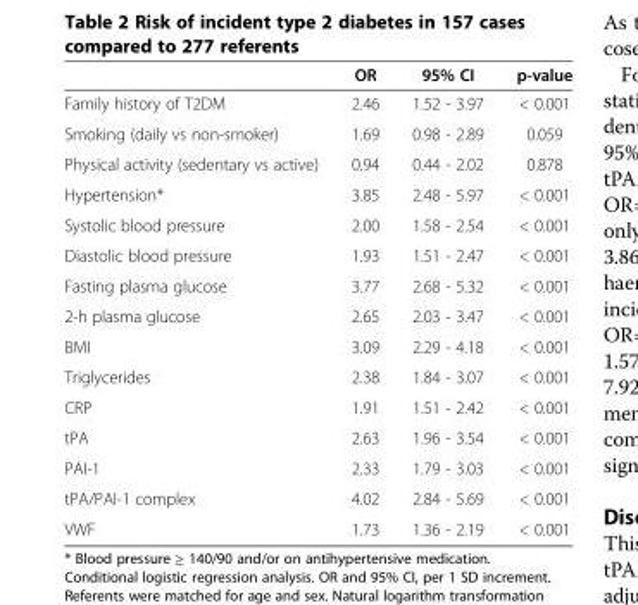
<table><thead><tr><td></td><td>OR</td><td>95% CI</td><td>p-value</td></tr></thead><tbody><tr><td>Family history of T2DM</td><td>2.46</td><td>1.52 - 3.97</td><td>&lt; 0.001</td></tr><tr><td>Smoking (daily vs non-smoker)</td><td>1.69</td><td>0.98 - 2.89</td><td>0.059</td></tr><tr><td>Physical activity (sedentary vs active)</td><td>0.94</td><td>0.44 - 2.02</td><td>0.878</td></tr><tr><td>Hypertension*</td><td>3.85</td><td>2.48 - 5.97</td><td>&lt; 0.001</td></tr><tr><td>Systolic blood pressure</td><td>2.00</td><td>1.58 - 2.54</td><td>&lt; 0.001</td></tr><tr><td>Diastolic blood pressure</td><td>1.93</td><td>1.51 - 2.47</td><td>&lt; 0.001</td></tr><tr><td>Fasting plasma glucose</td><td>3.77</td><td>2.68 - 5.32</td><td>&lt; 0.001</td></tr><tr><td>2-h plasma glucose</td><td>2.65</td><td>2.03 - 3.47</td><td>&lt; 0.001</td></tr><tr><td>BMI</td><td>3.09</td><td>2.29 - 4.18</td><td>&lt; 0.001</td></tr><tr><td>Triglycerides</td><td>2.38</td><td>1.84 - 3.07</td><td>&lt; 0.001</td></tr><tr><td>CRP</td><td>1.91</td><td>1.51 - 2.42</td><td>&lt; 0.001</td></tr><tr><td>tPA</td><td>2.63</td><td>1.96 - 3.54</td><td>&lt; 0.001</td></tr><tr><td>PAI-1</td><td>2.33</td><td>1.79 - 3.03</td><td>&lt; 0.001</td></tr><tr><td>tPA/PAI-1 complex</td><td>4.02</td><td>2.84 - 5.69</td><td>&lt; 0.001</td></tr><tr><td>VWF</td><td>1.73</td><td>1.36 - 2.19</td><td>&lt; 0.001</td></tr></tbody></table>